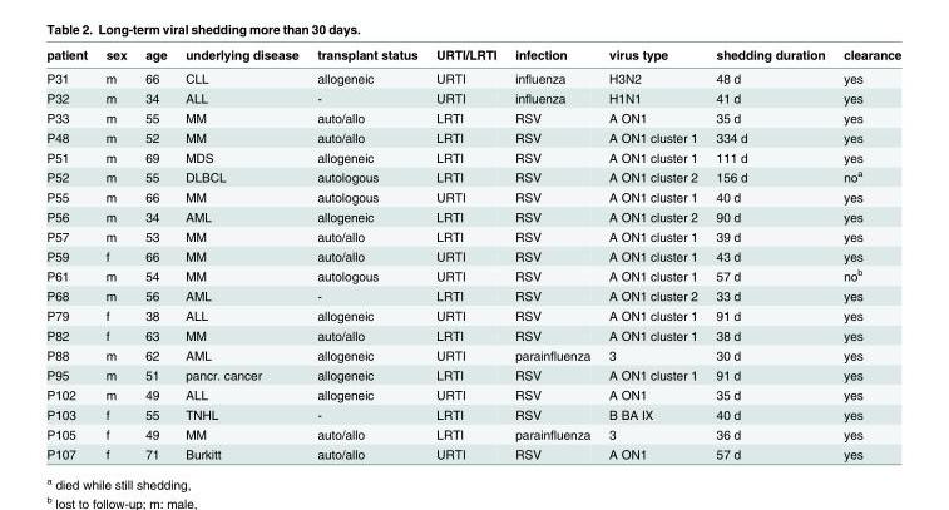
<table><thead><tr><td>patient</td><td>sex</td><td>age</td><td>underlying disease</td><td>transplant status</td><td>URTI/LRTI</td><td>infection</td><td>virus type</td><td>shedding duration</td><td>clearance</td></tr></thead><tbody><tr><td>P31</td><td>m</td><td>66</td><td>CLL</td><td>allogeneic</td><td>URTI</td><td>influenza</td><td>H3N2</td><td>48 d</td><td>yes</td></tr><tr><td>P32</td><td>m</td><td>34</td><td>ALL</td><td>-</td><td>URTI</td><td>influenza</td><td>H1N1</td><td>41 d</td><td>yes</td></tr><tr><td>P33</td><td>m</td><td>55</td><td>MM</td><td>auto/allo</td><td>LRTI</td><td>RSV</td><td>A ON1</td><td>35 d</td><td>yes</td></tr><tr><td>P48</td><td>m</td><td>52</td><td>MM</td><td>auto/allo</td><td>LRTI</td><td>RSV</td><td>A ON1 cluster 1</td><td>334 d</td><td>yes</td></tr><tr><td>P51</td><td>m</td><td>69</td><td>MDS</td><td>allogeneic</td><td>LRTI</td><td>RSV</td><td>A ON1 cluster 1</td><td>111 d</td><td>yes</td></tr><tr><td>P52</td><td>m</td><td>55</td><td>DLBCL</td><td>autologous</td><td>LRTI</td><td>RSV</td><td>A ON1 cluster 2</td><td>156 d</td><td>no<sup>a</sup></td></tr><tr><td>P55</td><td>m</td><td>66</td><td>MM</td><td>autologous</td><td>URTI</td><td>RSV</td><td>A ON1 cluster 1</td><td>40 d</td><td>yes</td></tr><tr><td>P56</td><td>m</td><td>34</td><td>AML</td><td>allogeneic</td><td>LRTI</td><td>RSV</td><td>A ON1 cluster 2</td><td>90 d</td><td>yes</td></tr><tr><td>P57</td><td>m</td><td>53</td><td>MM</td><td>auto/allo</td><td>LRTI</td><td>RSV</td><td>A ON1 cluster 1</td><td>39 d</td><td>yes</td></tr><tr><td>P59</td><td>f</td><td>66</td><td>MM</td><td>auto/allo</td><td>URTI</td><td>RSV</td><td>A ON1 cluster 1</td><td>43 d</td><td>yes</td></tr><tr><td>P61</td><td>m</td><td>54</td><td>MM</td><td>autologous</td><td>URTI</td><td>RSV</td><td>A ON1 cluster 1</td><td>57 d</td><td>no<sup>b</sup></td></tr><tr><td>P68</td><td>m</td><td>56</td><td>AML</td><td>-</td><td>LRTI</td><td>RSV</td><td>A ON1 cluster 2</td><td>33 d</td><td>yes</td></tr><tr><td>P79</td><td>f</td><td>38</td><td>ALL</td><td>allogeneic</td><td>URTI</td><td>RSV</td><td>A ON1 cluster 1</td><td>91 d</td><td>yes</td></tr><tr><td>P82</td><td>f</td><td>63</td><td>MM</td><td>auto/allo</td><td>LRTI</td><td>RSV</td><td>A ON1 cluster 1</td><td>38 d</td><td>yes</td></tr><tr><td>P88</td><td>m</td><td>62</td><td>AML</td><td>allogeneic</td><td>URTI</td><td>parainfluenza</td><td>3</td><td>30 d</td><td>yes</td></tr><tr><td>P95</td><td>m</td><td>51</td><td>pancr. cancer</td><td>allogeneic</td><td>LRTI</td><td>RSV</td><td>A ON1 cluster 1</td><td>91 d</td><td>yes</td></tr><tr><td>P102</td><td>m</td><td>49</td><td>ALL</td><td>allogeneic</td><td>URTI</td><td>RSV</td><td>A ON1</td><td>35 d</td><td>yes</td></tr><tr><td>P103</td><td>f</td><td>55</td><td>TNHL</td><td>-</td><td>LRTI</td><td>RSV</td><td>B BA IX</td><td>40 d</td><td>yes</td></tr><tr><td>P105</td><td>f</td><td>49</td><td>MM</td><td>auto/allo</td><td>LRTI</td><td>parainfluenza</td><td>3</td><td>36 d</td><td>yes</td></tr><tr><td>P107</td><td>f</td><td>71</td><td>Burkitt</td><td>auto/allo</td><td>URTI</td><td>RSV</td><td>A ON1</td><td>57 d</td><td>yes</td></tr></tbody></table>